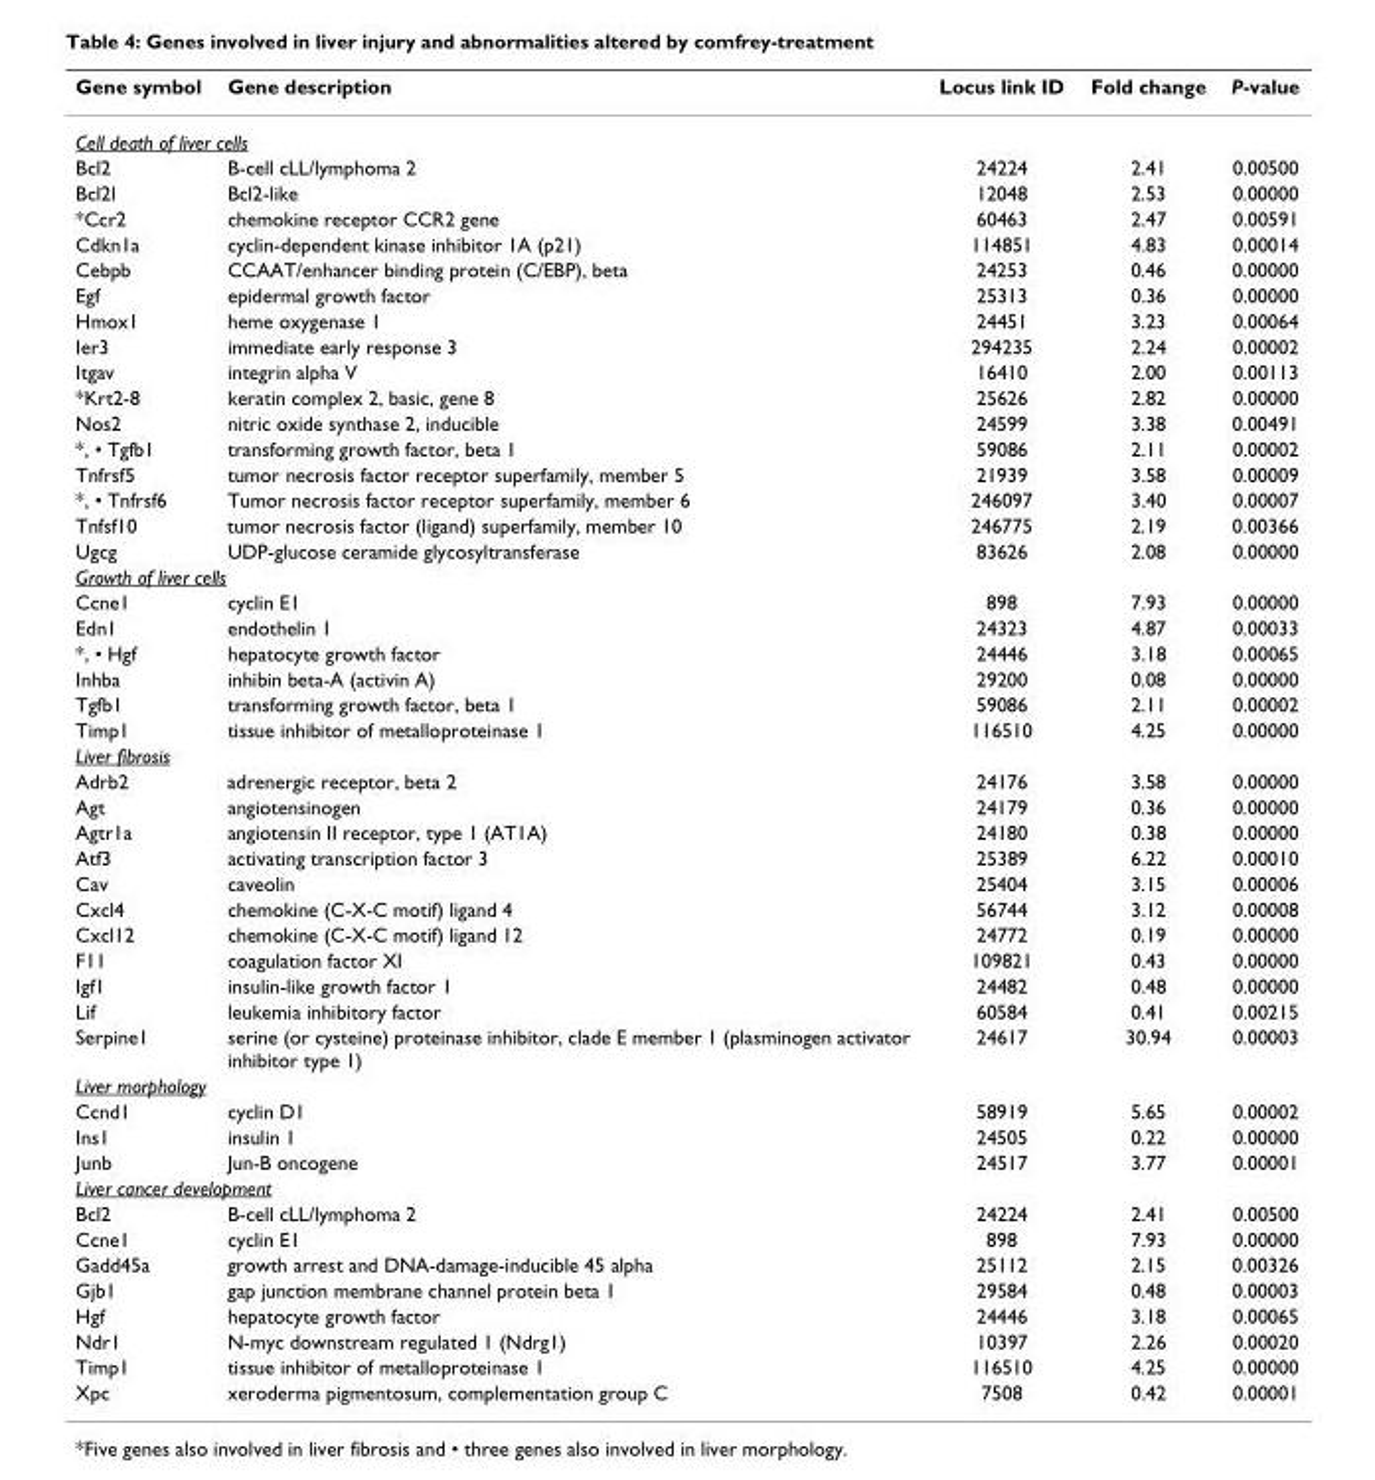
<table><thead><tr><td>Gene symbol</td><td>Gene description</td><td>Locus link ID</td><td>Fold change</td><td>P-value</td></tr></thead><tbody><tr><td colspan="5">Cell death of liver cells</td></tr><tr><td>Bcl2</td><td>B-cell cLL/lymphoma 2</td><td>24224</td><td>2.41</td><td>0.00500</td></tr><tr><td>Bcl2l</td><td>Bcl2-like</td><td>12048</td><td>2.53</td><td>0.00000</td></tr><tr><td>*Ccr2</td><td>chemokine receptor CCR2 gene</td><td>60463</td><td>2.47</td><td>0.00591</td></tr><tr><td>Cdkn1a</td><td>cyclin-dependent kinase inhibitor 1A (p21)</td><td>114851</td><td>4.83</td><td>0.00014</td></tr><tr><td>Cebpb</td><td>CCAAT/enhancer binding protein (C/EBP), beta</td><td>24253</td><td>0.46</td><td>0.00000</td></tr><tr><td>Egf</td><td>epidermal growth factor</td><td>25313</td><td>0.36</td><td>0.00000</td></tr><tr><td>Hmox1</td><td>heme oxygenase 1</td><td>24451</td><td>3.23</td><td>0.00064</td></tr><tr><td>Ier3</td><td>immediate early response 3</td><td>294235</td><td>2.24</td><td>0.00002</td></tr><tr><td>Itgav</td><td>integrin alpha V</td><td>16410</td><td>2.00</td><td>0.00113</td></tr><tr><td>*Krt2-8</td><td>keratin complex 2, basic, gene 8</td><td>25626</td><td>2.82</td><td>0.00000</td></tr><tr><td>Nos2</td><td>nitric oxide synthase 2, inducible</td><td>24599</td><td>3.38</td><td>0.00491</td></tr><tr><td>*, • Tgfb1</td><td>transforming growth factor, beta 1</td><td>59086</td><td>2.11</td><td>0.00002</td></tr><tr><td>Tnfrsf5</td><td>tumor necrosis factor receptor superfamily, member 5</td><td>21939</td><td>3.58</td><td>0.00009</td></tr><tr><td>*, • Tnfrsf6</td><td>Tumor necrosis factor receptor superfamily, member 6</td><td>246097</td><td>3.40</td><td>0.00007</td></tr><tr><td>Tnfsf10</td><td>tumor necrosis factor (ligand) superfamily, member 10</td><td>246775</td><td>2.19</td><td>0.00366</td></tr><tr><td>Ugcg</td><td>UDP-glucose ceramide glycosyltransferase</td><td>83626</td><td>2.08</td><td>0.00000</td></tr><tr><td colspan="5">Growth of liver cells</td></tr><tr><td>Ccne1</td><td>cyclin E1</td><td>898</td><td>7.93</td><td>0.00000</td></tr><tr><td>Edn1</td><td>endothelin 1</td><td>24323</td><td>4.87</td><td>0.00033</td></tr><tr><td>*, • Hgf</td><td>hepatocyte growth factor</td><td>24446</td><td>3.18</td><td>0.00065</td></tr><tr><td>Inhba</td><td>inhibin beta-A (activin A)</td><td>29200</td><td>0.08</td><td>0.00000</td></tr><tr><td>Tgfb1</td><td>transforming growth factor, beta 1</td><td>59086</td><td>2.11</td><td>0.00002</td></tr><tr><td>Timp1</td><td>tissue inhibitor of metalloproteinase 1</td><td>116510</td><td>4.25</td><td>0.00000</td></tr><tr><td colspan="5">Liver fibrosis</td></tr><tr><td>Adrb2</td><td>adrenergic receptor, beta 2</td><td>24176</td><td>3.58</td><td>0.00000</td></tr><tr><td>Agt</td><td>angiotensinogen</td><td>24179</td><td>0.36</td><td>0.00000</td></tr><tr><td>Agtr1a</td><td>angiotensin II receptor, type 1 (AT1A)</td><td>24180</td><td>0.38</td><td>0.00000</td></tr><tr><td>Atf3</td><td>activating transcription factor 3</td><td>25389</td><td>6.22</td><td>0.00010</td></tr><tr><td>Cav</td><td>caveolin</td><td>25404</td><td>3.15</td><td>0.00006</td></tr><tr><td>Cxcl4</td><td>chemokine (C-X-C motif) ligand 4</td><td>56744</td><td>3.12</td><td>0.00008</td></tr><tr><td>Cxcl12</td><td>chemokine (C-X-C motif) ligand 12</td><td>24772</td><td>0.19</td><td>0.00000</td></tr><tr><td>F11</td><td>coagulation factor XI</td><td>109821</td><td>0.43</td><td>0.00000</td></tr><tr><td>Igf1</td><td>insulin-like growth factor 1</td><td>24482</td><td>0.48</td><td>0.00000</td></tr><tr><td>Lif</td><td>leukemia inhibitory factor</td><td>60584</td><td>0.41</td><td>0.00215</td></tr><tr><td>Serpine1</td><td>serine (or cysteine) proteinase inhibitor, clade E member 1 (plasminogen activator inhibitor type 1)</td><td>24617</td><td>30.94</td><td>0.00003</td></tr><tr><td colspan="5">Liver morphology</td></tr><tr><td>Ccnd1</td><td>cyclin D1</td><td>58919</td><td>5.65</td><td>0.00002</td></tr><tr><td>Ins1</td><td>insulin 1</td><td>24505</td><td>0.22</td><td>0.00000</td></tr><tr><td>Junb</td><td>Jun-B oncogene</td><td>24517</td><td>3.77</td><td>0.00001</td></tr><tr><td colspan="5">Liver cancer development</td></tr><tr><td>Bcl2</td><td>B-cell cLL/lymphoma 2</td><td>24224</td><td>2.41</td><td>0.00500</td></tr><tr><td>Ccne1</td><td>cyclin E1</td><td>898</td><td>7.93</td><td>0.00000</td></tr><tr><td>Gadd45a</td><td>growth arrest and DNA-damage-inducible 45 alpha</td><td>25112</td><td>2.15</td><td>0.00326</td></tr><tr><td>Gjb1</td><td>gap junction membrane channel protein beta 1</td><td>29584</td><td>0.48</td><td>0.00003</td></tr><tr><td>Hgf</td><td>hepatocyte growth factor</td><td>24446</td><td>3.18</td><td>0.00065</td></tr><tr><td>Ndr1</td><td>N-myc downstream regulated 1 (Ndrg1)</td><td>10397</td><td>2.26</td><td>0.00020</td></tr><tr><td>Timp1</td><td>tissue inhibitor of metalloproteinase 1</td><td>116510</td><td>4.25</td><td>0.00000</td></tr><tr><td>Xpc</td><td>xeroderma pigmentosum, complementation group C</td><td>7508</td><td>0.42</td><td>0.00001</td></tr></tbody></table>